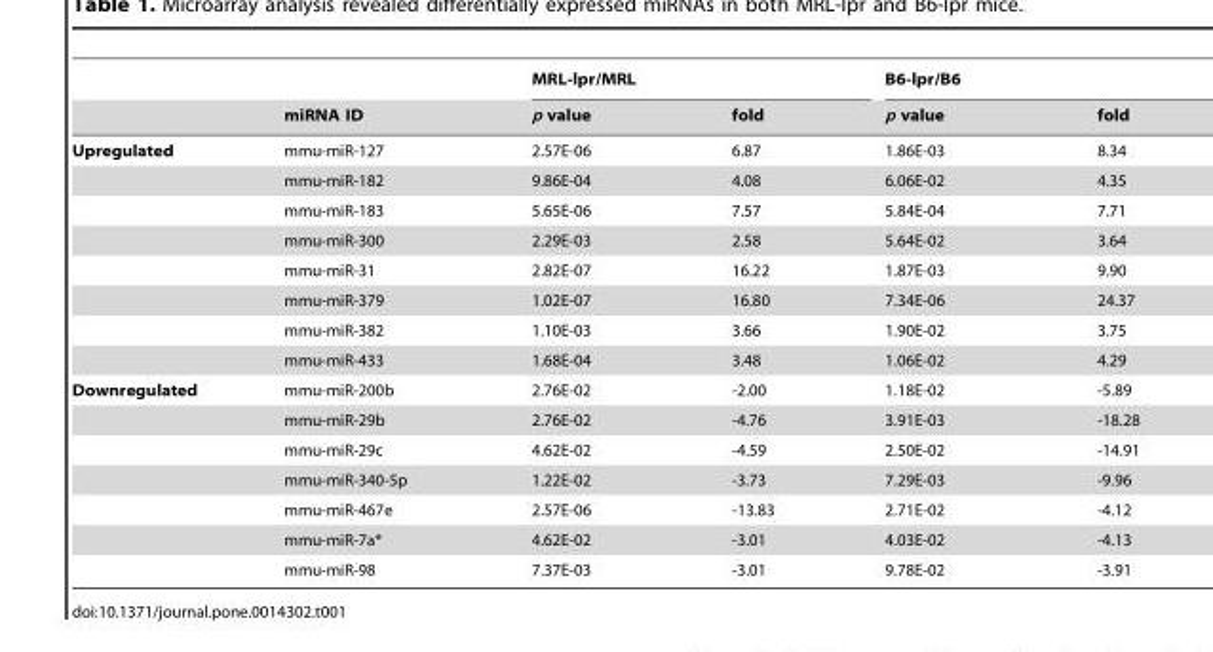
<table><thead><tr><td rowspan="2"></td><td rowspan="2">miRNA ID</td><td colspan="2">MRL-lpr/MRL</td><td colspan="2">B6-lpr/B6</td></tr><tr><td>p value</td><td>fold</td><td>p value</td><td>fold</td></tr></thead><tbody><tr><td rowspan="8">Upregulated</td><td>mmu-miR-127</td><td>2.57E-06</td><td>6.87</td><td>1.86E-03</td><td>8.34</td></tr><tr><td>mmu-miR-182</td><td>9.86E-04</td><td>4.08</td><td>6.06E-02</td><td>4.35</td></tr><tr><td>mmu-miR-183</td><td>5.65E-06</td><td>7.57</td><td>5.84E-04</td><td>7.71</td></tr><tr><td>mmu-miR-300</td><td>2.29E-03</td><td>2.58</td><td>5.64E-02</td><td>3.64</td></tr><tr><td>mmu-miR-31</td><td>2.82E-07</td><td>16.22</td><td>1.87E-03</td><td>9.90</td></tr><tr><td>mmu-miR-379</td><td>1.02E-07</td><td>16.80</td><td>7.34E-06</td><td>24.37</td></tr><tr><td>mmu-miR-382</td><td>1.10E-03</td><td>3.66</td><td>1.90E-02</td><td>3.75</td></tr><tr><td>mmu-miR-433</td><td>1.68E-04</td><td>3.48</td><td>1.06E-02</td><td>4.29</td></tr><tr><td rowspan="7">Downregulated</td><td>mmu-miR-200b</td><td>2.76E-02</td><td>-2.00</td><td>1.18E-02</td><td>-5.89</td></tr><tr><td>mmu-miR-29b</td><td>2.76E-02</td><td>-4.76</td><td>3.91E-03</td><td>-18.28</td></tr><tr><td>mmu-miR-29c</td><td>4.62E-02</td><td>-4.59</td><td>2.50E-02</td><td>-14.91</td></tr><tr><td>mmu-miR-340-5p</td><td>1.22E-02</td><td>-3.73</td><td>7.29E-03</td><td>-9.96</td></tr><tr><td>mmu-miR-467e</td><td>2.57E-06</td><td>-13.83</td><td>2.71E-02</td><td>-4.12</td></tr><tr><td>mmu-miR-7a*</td><td>4.62E-02</td><td>-3.01</td><td>4.03E-02</td><td>-4.13</td></tr><tr><td>mmu-miR-98</td><td>7.37E-03</td><td>-3.01</td><td>9.78E-02</td><td>-3.91</td></tr></tbody></table>